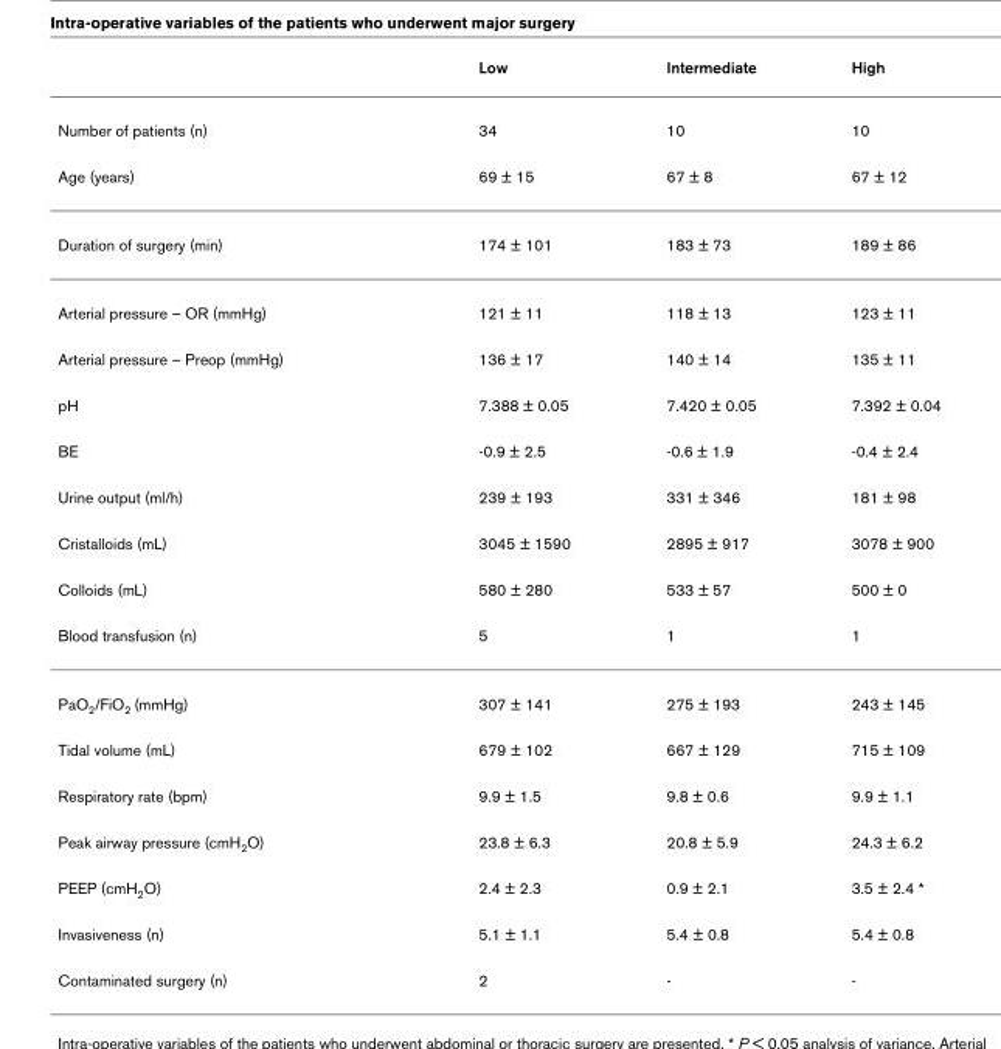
<table><thead><tr><td></td><td>Low</td><td>Intermediate</td><td>High</td></tr></thead><tbody><tr><td>Number of patients (n)</td><td>34</td><td>10</td><td>10</td></tr><tr><td>Age (years)</td><td>69 ± 15</td><td>67 ± 8</td><td>67 ± 12</td></tr><tr><td>Duration of surgery (min)</td><td>174 ± 101</td><td>183 ± 73</td><td>189 ± 86</td></tr><tr><td>Arterial pressure – OR (mmHg)</td><td>121 ± 11</td><td>118 ± 13</td><td>123 ± 11</td></tr><tr><td>Arterial pressure – Preop (mmHg)</td><td>136 ± 17</td><td>140 ± 14</td><td>135 ± 11</td></tr><tr><td>pH</td><td>7.388 ± 0.05</td><td>7.420 ± 0.05</td><td>7.392 ± 0.04</td></tr><tr><td>BE</td><td>-0.9 ± 2.5</td><td>-0.6 ± 1.9</td><td>-0.4 ± 2.4</td></tr><tr><td>Urine output (ml/h)</td><td>239 ± 193</td><td>331 ± 346</td><td>181 ± 98</td></tr><tr><td>Cristalloids (mL)</td><td>3045 ± 1590</td><td>2895 ± 917</td><td>3078 ± 900</td></tr><tr><td>Colloids (mL)</td><td>580 ± 280</td><td>533 ± 57</td><td>500 ± 0</td></tr><tr><td>Blood transfusion (n)</td><td>5</td><td>1</td><td>1</td></tr><tr><td>PaO<sub>2</sub>/FiO<sub>2</sub> (mmHg)</td><td>307 ± 141</td><td>275 ± 193</td><td>243 ± 145</td></tr><tr><td>Tidal volume (mL)</td><td>679 ± 102</td><td>667 ± 129</td><td>715 ± 109</td></tr><tr><td>Respiratory rate (bpm)</td><td>9.9 ± 1.5</td><td>9.8 ± 0.6</td><td>9.9 ± 1.1</td></tr><tr><td>Peak airway pressure (cmH<sub>2</sub>O)</td><td>23.8 ± 6.3</td><td>20.8 ± 5.9</td><td>24.3 ± 6.2</td></tr><tr><td>PEEP (cmH<sub>2</sub>O)</td><td>2.4 ± 2.3</td><td>0.9 ± 2.1</td><td>3.5 ± 2.4 *</td></tr><tr><td>Invasiveness (n)</td><td>5.1 ± 1.1</td><td>5.4 ± 0.8</td><td>5.4 ± 0.8</td></tr><tr><td>Contaminated surgery (n)</td><td>2</td><td>-</td><td>-</td></tr></tbody></table>